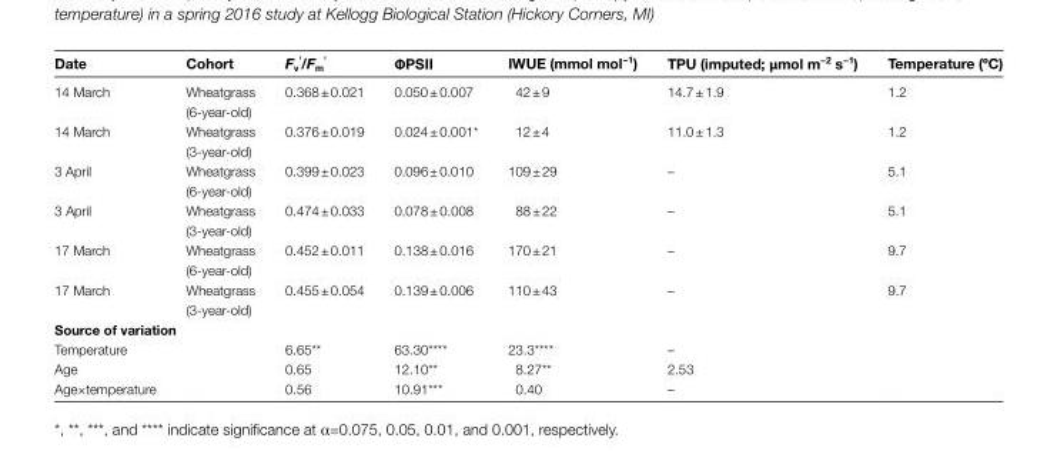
<table><thead><tr><td>Date</td><td>Cohort</td><td>F<sub>v</sub> <sup>&#x27;</sup>/F<sub>m</sub> <sup>&#x27;</sup></td><td>ΦPSII</td><td>IWUE (mmol mol<sup>−1</sup>)</td><td>TPU (imputed; μmol m<sup>−2</sup> s<sup>−1</sup>)</td><td>Temperature (ºC)</td></tr></thead><tbody><tr><td>14 March</td><td>Wheatgrass (6-year-old)</td><td>0.368 ± 0.021</td><td>0.050 ± 0.007</td><td>42 ± 9</td><td>14.7 ± 1.9</td><td>1.2</td></tr><tr><td>14 March</td><td>Wheatgrass (3-year-old)</td><td>0.376 ± 0.019</td><td>0.024 ± 0.001*</td><td>12 ± 4</td><td>11.0 ± 1.3</td><td>1.2</td></tr><tr><td>3 April</td><td>Wheatgrass (6-year-old)</td><td>0.399 ± 0.023</td><td>0.096 ± 0.010</td><td>109 ± 29</td><td>–</td><td>5.1</td></tr><tr><td>3 April</td><td>Wheatgrass (3-year-old)</td><td>0.474 ± 0.033</td><td>0.078 ± 0.008</td><td>88 ± 22</td><td>–</td><td>5.1</td></tr><tr><td>17 March</td><td>Wheatgrass (6-year-old)</td><td>0.452 ± 0.011</td><td>0.138 ± 0.016</td><td>170 ± 21</td><td>–</td><td>9.7</td></tr><tr><td>17 March</td><td>Wheatgrass (3-year-old)</td><td>0.455 ± 0.054</td><td>0.139 ± 0.006</td><td>110 ± 43</td><td>–</td><td>9.7</td></tr><tr><td colspan="7">Source of variation</td></tr><tr><td>Temperature</td><td></td><td>6.65**</td><td>63.30****</td><td>23.3****</td><td>–</td><td></td></tr><tr><td>Age</td><td></td><td>0.65</td><td>12.10**</td><td>8.27**</td><td>2.53</td><td></td></tr><tr><td>Age×temperature</td><td></td><td>0.56</td><td>10.91***</td><td>0.40</td><td>–</td><td></td></tr></tbody></table>